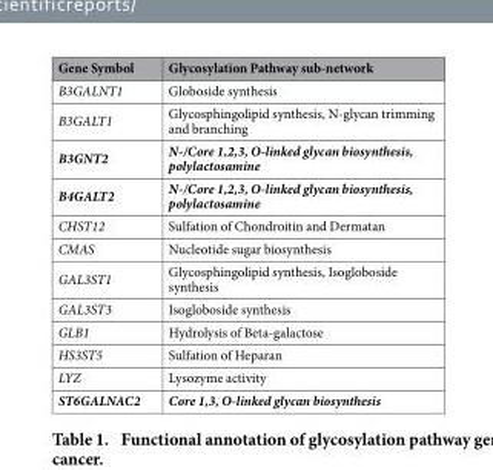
<table><thead><tr><td>Gene Symbol</td><td>Glycosylation Pathway sub-network</td></tr></thead><tbody><tr><td>B3GALNT1</td><td>Globoside synthesis</td></tr><tr><td>B3GALT1</td><td>Glycosphingolipid synthesis, N-glycan trimming and branching</td></tr><tr><td>B3GNT2</td><td>N-/Core 1,2,3, O-linked glycan biosynthesis, polylactosamine</td></tr><tr><td>B4GALT2</td><td>N-/Core 1,2,3, O-linked glycan biosynthesis, polylactosamine</td></tr><tr><td>CHST12</td><td>Sulfation of Chondroitin and Dermatan</td></tr><tr><td>CMAS</td><td>Nucleotide sugar biosynthesis</td></tr><tr><td>GAL3ST1</td><td>Glycosphingolipid synthesis, Isogloboside synthesis</td></tr><tr><td>GAL3ST3</td><td>Isogloboside synthesis</td></tr><tr><td>GLB1</td><td>Hydrolysis of Beta-galactose</td></tr><tr><td>HS3ST5</td><td>Sulfation of Heparan</td></tr><tr><td>LYZ</td><td>Lysozyme activity</td></tr><tr><td>ST6GALNAC2</td><td>Core 1,3, O-linked glycan biosynthesis</td></tr></tbody></table>